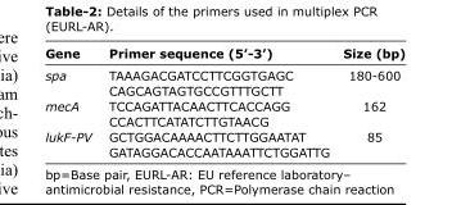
<table><thead><tr><td>Gene</td><td>Primer sequence (5’-3’)</td><td>Size (bp)</td></tr></thead><tbody><tr><td rowspan="2">spa</td><td>TAAAGACGATCCTTCGGTGAGC</td><td>180-600</td></tr><tr><td>CAGCAGTAGTGCCGTTTGCTT</td><td></td></tr><tr><td rowspan="2">mecA</td><td>TCCAGATTACAACTTCACCAGG</td><td>162</td></tr><tr><td>CCACTTCATATCTTGTAACG</td><td></td></tr><tr><td rowspan="2">lukF-PV</td><td>GCTGGACAAAACTTCTTGGAATAT</td><td>85</td></tr><tr><td>GATAGGACACCAATAAATTCTGGATTG</td><td></td></tr></tbody></table>